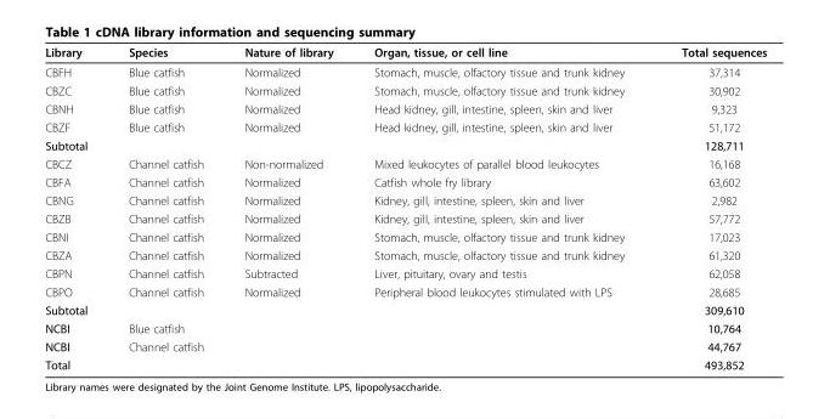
<table><thead><tr><td>Library</td><td>Species</td><td>Nature of library</td><td>Organ, tissue, or cell line</td><td>Total sequences</td></tr></thead><tbody><tr><td>CBFH</td><td>Blue catfish</td><td>Normalized</td><td>Stomach, muscle, olfactory tissue and trunk kidney</td><td>37,314</td></tr><tr><td>CBZC</td><td>Blue catfish</td><td>Normalized</td><td>Stomach, muscle, olfactory tissue and trunk kidney</td><td>30,902</td></tr><tr><td>CBNH</td><td>Blue catfish</td><td>Normalized</td><td>Head kidney, gill, intestine, spleen, skin and liver</td><td>9,323</td></tr><tr><td>CBZF</td><td>Blue catfish</td><td>Normalized</td><td>Head kidney, gill, intestine, spleen, skin and liver</td><td>51,172</td></tr><tr><td>Subtotal</td><td></td><td></td><td></td><td>128,711</td></tr><tr><td>CBCZ</td><td>Channel catfish</td><td>Non-normalized</td><td>Mixed leukocytes of parallel blood leukocytes</td><td>16,168</td></tr><tr><td>CBFA</td><td>Channel catfish</td><td>Normalized</td><td>Catfish whole fry library</td><td>63,602</td></tr><tr><td>CBNG</td><td>Channel catfish</td><td>Normalized</td><td>Kidney, gill, intestine, spleen, skin and liver</td><td>2,982</td></tr><tr><td>CBZB</td><td>Channel catfish</td><td>Normalized</td><td>Kidney, gill, intestine, spleen, skin and liver</td><td>57,772</td></tr><tr><td>CBNI</td><td>Channel catfish</td><td>Normalized</td><td>Stomach, muscle, olfactory tissue and trunk kidney</td><td>17,023</td></tr><tr><td>CBZA</td><td>Channel catfish</td><td>Normalized</td><td>Stomach, muscle, olfactory tissue and trunk kidney</td><td>61,320</td></tr><tr><td>CBPN</td><td>Channel catfish</td><td>Subtracted</td><td>Liver, pituitary, ovary and testis</td><td>62,058</td></tr><tr><td>CBPO</td><td>Channel catfish</td><td>Normalized</td><td>Peripheral blood leukocytes stimulated with LPS</td><td>28,685</td></tr><tr><td>Subtotal</td><td></td><td></td><td></td><td>309,610</td></tr><tr><td>NCBI</td><td>Blue catfish</td><td></td><td></td><td>10,764</td></tr><tr><td>NCBI</td><td>Channel catfish</td><td></td><td></td><td>44,767</td></tr><tr><td>Total</td><td></td><td></td><td></td><td>493,852</td></tr></tbody></table>